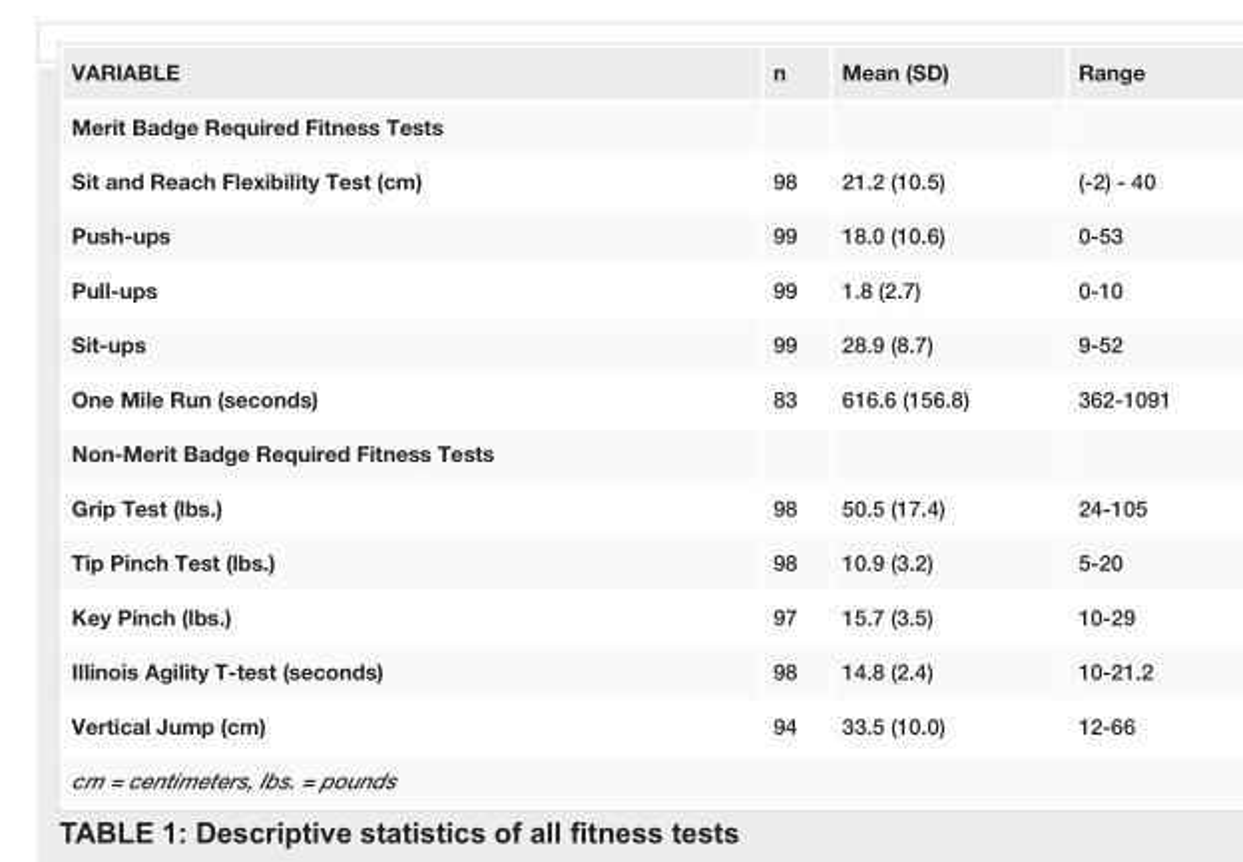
<table><tbody><tr><td>VARIABLE</td><td>n</td><td>Mean (SD)</td><td>Range</td></tr><tr><td colspan="4">Merit Badge Required Fitness Tests</td></tr><tr><td>Sit and Reach Flexibility Test (cm)</td><td>98</td><td>21.2 (10.5)</td><td>(-2) - 40</td></tr><tr><td>Push-ups</td><td>99</td><td>18.0 (10.6)</td><td>0-53</td></tr><tr><td>Pull-ups</td><td>99</td><td>1.8 (2.7)</td><td>0-10</td></tr><tr><td>Sit-ups</td><td>99</td><td>28.9 (8.7)</td><td>9-52</td></tr><tr><td>One Mile Run (seconds)</td><td>83</td><td>616.6 (156.8)</td><td>362-1091</td></tr><tr><td colspan="4">Non-Merit Badge Required Fitness Tests</td></tr><tr><td>Grip Test (lbs.)</td><td>98</td><td>50.5 (17.4)</td><td>24-105</td></tr><tr><td>Tip Pinch Test (lbs.)</td><td>98</td><td>10.9 (3.2)</td><td>5-20</td></tr><tr><td>Key Pinch (lbs.)</td><td>97</td><td>15.7 (3.5)</td><td>10-29</td></tr><tr><td>Illinois Agility T-test (seconds)</td><td>98</td><td>14.8 (2.4)</td><td>10-21.2</td></tr><tr><td>Vertical Jump (cm)</td><td>94</td><td>33.5 (10.0)</td><td>12-66</td></tr><tr><td colspan="4">cm = centimeters, lbs. = pounds</td></tr></tbody></table>